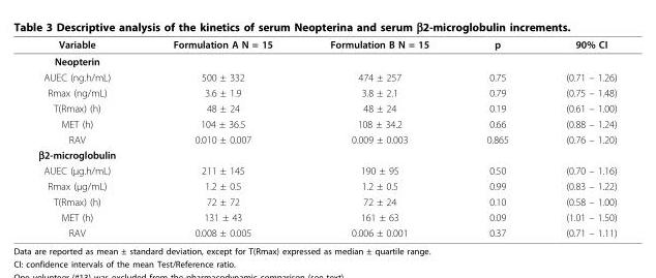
<table><thead><tr><td>Variable</td><td>Formulation A N = 15</td><td>Formulation B N = 15</td><td>p</td><td>90% CI</td></tr></thead><tbody><tr><td colspan="5">Neopterin</td></tr><tr><td>AUEC (ng.h/mL)</td><td>500 ± 332</td><td>474 ± 257</td><td>0.75</td><td>(0.71 – 1.26)</td></tr><tr><td>Rmax (ng/mL)</td><td>3.6 ± 1.9</td><td>3.8 ± 2.1</td><td>0.79</td><td>(0.75 – 1.48)</td></tr><tr><td>T(Rmax) (h)</td><td>48 ± 24</td><td>48 ± 24</td><td>0.19</td><td>(0.61 – 1.00)</td></tr><tr><td>MET (h)</td><td>104 ± 36.5</td><td>108 ± 34.2</td><td>0.66</td><td>(0.88 – 1.24)</td></tr><tr><td>RAV</td><td>0.010 ± 0.007</td><td>0.009 ± 0.003</td><td>0.865</td><td>(0.76 – 1.20)</td></tr><tr><td colspan="5">β2-microglobulin</td></tr><tr><td>AUEC (μg.h/mL)</td><td>211 ± 145</td><td>190 ± 95</td><td>0.50</td><td>(0.70 – 1.16)</td></tr><tr><td>Rmax (μg/mL)</td><td>1.2 ± 0.5</td><td>1.2 ± 0.5</td><td>0.99</td><td>(0.83 – 1.22)</td></tr><tr><td>T(Rmax) (h)</td><td>72 ± 72</td><td>72 ± 24</td><td>0.10</td><td>(0.58 – 1.00)</td></tr><tr><td>MET (h)</td><td>131 ± 43</td><td>161 ± 63</td><td>0.09</td><td>(1.01 – 1.50)</td></tr><tr><td>RAV</td><td>0.008 ± 0.005</td><td>0.006 ± 0.001</td><td>0.37</td><td>(0.71 – 1.11)</td></tr></tbody></table>